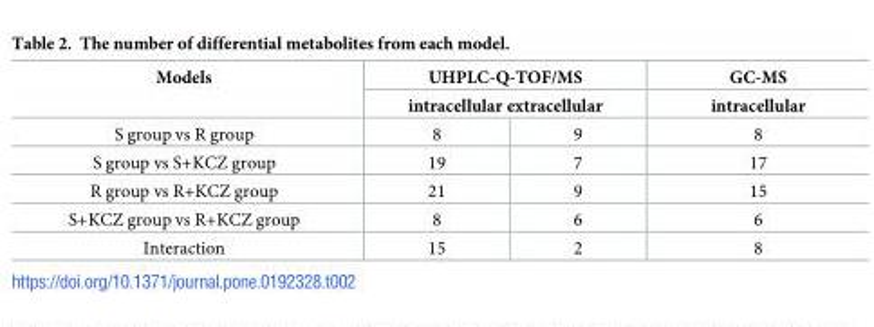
<table><thead><tr><td rowspan="3">Models S group vs R group</td><td rowspan="2" colspan="2">UHPLC-Q-TOF/MS intracellular extracellular</td><td rowspan="3">GC-MS intracellular 8</td></tr><tr></tr><tr><td>8</td><td>9</td></tr></thead><tbody><tr><td>S group vs S+KCZ group</td><td>19</td><td>7</td><td>17</td></tr><tr><td>R group vs R+KCZ group</td><td>21</td><td>9</td><td>15</td></tr><tr><td>S+KCZ group vs R+KCZ group</td><td>8</td><td>6</td><td>6</td></tr><tr><td>Interaction</td><td>15</td><td>2</td><td>8</td></tr></tbody></table>